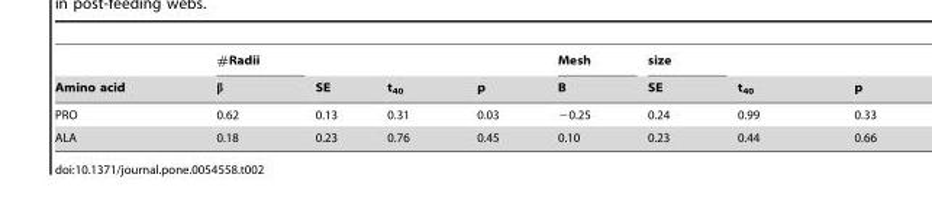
<table><thead><tr><td rowspan="2">Amino acid</td><td rowspan="2">#Radii β</td><td rowspan="2">SE</td><td rowspan="2">t<sub>40</sub></td><td rowspan="2">p</td><td rowspan="2">Mesh B</td><td rowspan="2">size SE</td><td rowspan="2">t<sub>40</sub></td><td rowspan="2">p</td></tr><tr></tr></thead><tbody><tr><td>PRO</td><td>0.62</td><td>0.13</td><td>0.31</td><td>0.03</td><td>−0.25</td><td>0.24</td><td>0.99</td><td>0.33</td></tr><tr><td>ALA</td><td>0.18</td><td>0.23</td><td>0.76</td><td>0.45</td><td>0.10</td><td>0.23</td><td>0.44</td><td>0.66</td></tr></tbody></table>